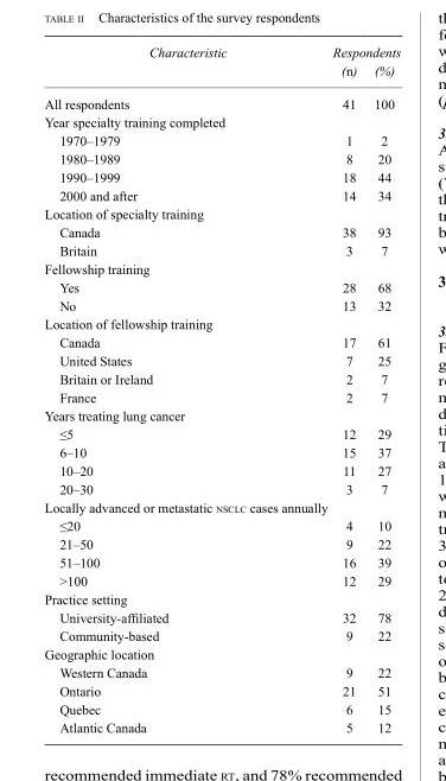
<table><thead><tr><td rowspan="2">Characteristic</td><td colspan="2">Respondents</td></tr><tr><td>(n)</td><td>(%)</td></tr></thead><tbody><tr><td>All respondents</td><td>41</td><td>100</td></tr><tr><td colspan="3">Year specialty training completed</td></tr><tr><td>1970–1979</td><td>1</td><td>2</td></tr><tr><td>1980–1989</td><td>8</td><td>20</td></tr><tr><td>1990–1999</td><td>18</td><td>44</td></tr><tr><td>2000 and after</td><td>14</td><td>34</td></tr><tr><td colspan="3">Location of specialty training</td></tr><tr><td>Canada</td><td>38</td><td>93</td></tr><tr><td>Britain</td><td>3</td><td>7</td></tr><tr><td colspan="3">Fellowship training</td></tr><tr><td>Yes</td><td>28</td><td>68</td></tr><tr><td>No</td><td>13</td><td>32</td></tr><tr><td colspan="3">Location of fellowship training</td></tr><tr><td>Canada</td><td>17</td><td>61</td></tr><tr><td>United States</td><td>7</td><td>25</td></tr><tr><td>Britain or Ireland</td><td>2</td><td>7</td></tr><tr><td>France</td><td>2</td><td>7</td></tr><tr><td colspan="3">Years treating lung cancer</td></tr><tr><td>≤5</td><td>12</td><td>29</td></tr><tr><td>6–10</td><td>15</td><td>37</td></tr><tr><td>10–20</td><td>11</td><td>27</td></tr><tr><td>20–30</td><td>3</td><td>7</td></tr><tr><td colspan="3">Locally advanced or metastatic nsclc cases annually</td></tr><tr><td>≤20</td><td>4</td><td>10</td></tr><tr><td>21–50</td><td>9</td><td>22</td></tr><tr><td>51–100</td><td>16</td><td>39</td></tr><tr><td>&gt;100</td><td>12</td><td>29</td></tr><tr><td colspan="3">Practice setting</td></tr><tr><td>University-affiliated</td><td>32</td><td>78</td></tr><tr><td>Community-based</td><td>9</td><td>22</td></tr><tr><td colspan="3">Geographic location</td></tr><tr><td>Western Canada</td><td>9</td><td>22</td></tr><tr><td>Ontario</td><td>21</td><td>51</td></tr><tr><td>Quebec</td><td>6</td><td>15</td></tr><tr><td>Atlantic Canada</td><td>5</td><td>12</td></tr></tbody></table>